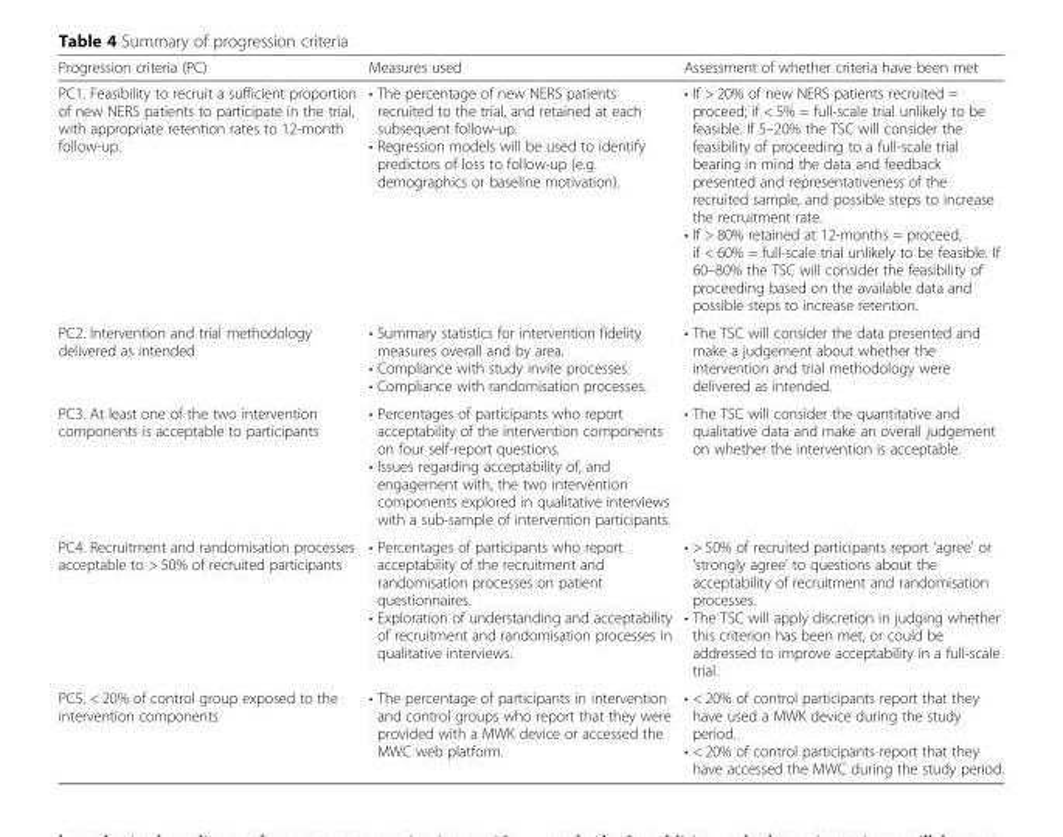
<table><thead><tr><td>Progression criteria (PC)</td><td>Measures used</td><td>Assessment of whether criteria have been met</td></tr></thead><tbody><tr><td>PC1. Feasibility to recruit a sufficient proportion of new NERS patients to participate in the trial, with appropriate retention rates to 12-month follow-up.</td><td>• The percentage of new NERS patients recruited to the trial, and retained at each subsequent follow-up. • Regression models will be used to identify predictors of loss to follow-up (e.g. demographics or baseline motivation).</td><td>• If &gt; 20% of new NERS patients recruited = proceed; if &lt; 5% = full-scale trial unlikely to be feasible. If 5–20% the TSC will consider the feasibility of proceeding to a full-scale trial bearing in mind the data and feedback presented and representativeness of the recruited sample, and possible steps to increase the recruitment rate. • If &gt; 80% retained at 12-months = proceed, if &lt; 60% = full-scale trial unlikely to be feasible. If 60–80% the TSC will consider the feasibility of proceeding based on the available data and possible steps to increase retention.</td></tr><tr><td>PC2. Intervention and trial methodology delivered as intended</td><td>• Summary statistics for intervention fidelity measures overall and by area. • Compliance with study invite processes. • Compliance with randomisation processes.</td><td>• The TSC will consider the data presented and make a judgement about whether the intervention and trial methodology were delivered as intended.</td></tr><tr><td>PC3. At least one of the two intervention components is acceptable to participants</td><td>• Percentages of participants who report acceptability of the intervention components on four self-report questions. • Issues regarding acceptability of, and engagement with, the two intervention components explored in qualitative interviews with a sub-sample of intervention participants.</td><td>• The TSC will consider the quantitative and qualitative data and make an overall judgement on whether the intervention is acceptable.</td></tr><tr><td>PC4. Recruitment and randomisation processes acceptable to &gt; 50% of recruited participants</td><td>• Percentages of participants who report acceptability of the recruitment and randomisation processes on patient questionnaires. • Exploration of understanding and acceptability of recruitment and randomisation processes in qualitative interviews.</td><td>• &gt; 50% of recruited participants report ‘agree’ or ‘strongly agree’ to questions about the acceptability of recruitment and randomisation processes. • The TSC will apply discretion in judging whether this criterion has been met, or could be addressed to improve acceptability in a full-scale trial.</td></tr><tr><td>PC5. &lt; 20% of control group exposed to the intervention components</td><td>• The percentage of participants in intervention and control groups who report that they were provided with a MWK device or accessed the MWC web platform.</td><td>• &lt; 20% of control participants report that they have used a MWK device during the study period. • &lt; 20% of control participants report that they have accessed the MWC during the study period.</td></tr></tbody></table>